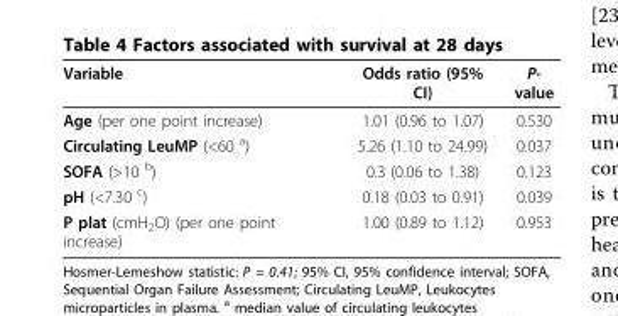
<table><thead><tr><td>Variable</td><td>Odds ratio (95% CI)</td><td>P- value</td></tr></thead><tbody><tr><td>Age (per one point increase)</td><td>1.01 (0.96 to 1.07)</td><td>0.530</td></tr><tr><td>Circulating LeuMP (&lt;60 <sup>a</sup>)</td><td>5.26 (1.10 to 24.99)</td><td>0.037</td></tr><tr><td>SOFA (&gt;10 <sup>b</sup>)</td><td>0.3 (0.06 to 1.38)</td><td>0.123</td></tr><tr><td>pH (&lt;7.30 <sup>c</sup>)</td><td>0.18 (0.03 to 0.91)</td><td>0.039</td></tr><tr><td>P plat (cmH<sub>2</sub>O) (per one point increase)</td><td>1.00 (0.89 to 1.12)</td><td>0.953</td></tr></tbody></table>